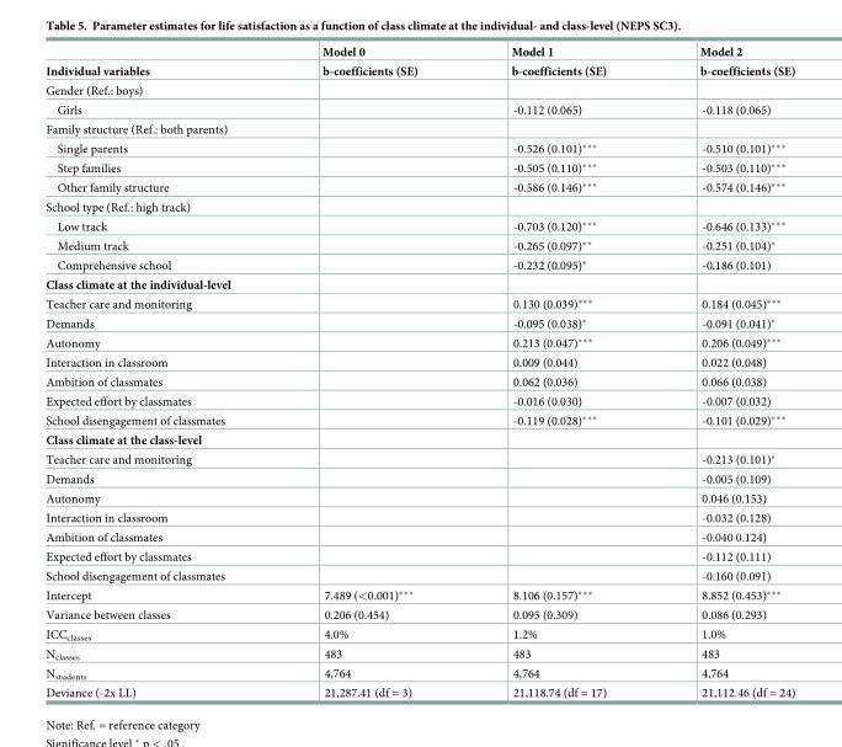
<table><thead><tr><td rowspan="2">Individual variables</td><td rowspan="2">Model 0 b-coefficients (SE)</td><td rowspan="2">Model 1 b-coefficients (SE)</td><td rowspan="2">Model 2 b-coefficients (SE)</td></tr><tr></tr></thead><tbody><tr><td colspan="4">Gender (Ref.: boys)</td></tr><tr><td>Girls</td><td></td><td>-0.112 (0.065)</td><td>-0.118 (0.065)</td></tr><tr><td colspan="4">Family structure (Ref.: both parents)</td></tr><tr><td>Single parents</td><td></td><td>-0.526 (0.101)***</td><td>-0.510 (0.101)***</td></tr><tr><td>Step families</td><td></td><td>-0.505 (0.110)***</td><td>-0.503 (0.110)***</td></tr><tr><td>Other family structure</td><td></td><td>-0.586 (0.146)***</td><td>-0.574 (0.146)***</td></tr><tr><td colspan="4">School type (Ref.: high track)</td></tr><tr><td>Low track</td><td></td><td>-0.703 (0.120)***</td><td>-0.646 (0.133)***</td></tr><tr><td>Medium track</td><td></td><td>-0.265 (0.097)**</td><td>-0.251 (0.104)*</td></tr><tr><td>Comprehensive school</td><td></td><td>-0.232 (0.095)*</td><td>-0.186 (0.101)</td></tr><tr><td colspan="4">Class climate at the individual-level</td></tr><tr><td>Teacher care and monitoring</td><td></td><td>0.130 (0.039)***</td><td>0.184 (0.045)***</td></tr><tr><td>Demands</td><td></td><td>-0.095 (0.038)*</td><td>-0.091 (0.041)*</td></tr><tr><td>Autonomy</td><td></td><td>0.213 (0.047)***</td><td>0.206 (0.049)***</td></tr><tr><td>Interaction in classroom</td><td></td><td>0.009 (0.044)</td><td>0.022 (0.048)</td></tr><tr><td>Ambition of classmates</td><td></td><td>0.062 (0.036)</td><td>0.066 (0.038)</td></tr><tr><td>Expected effort by classmates</td><td></td><td>-0.016 (0.030)</td><td>-0.007 (0.032)</td></tr><tr><td>School disengagement of classmates</td><td></td><td>-0.119 (0.028)***</td><td>-0.101 (0.029)***</td></tr><tr><td colspan="4">Class climate at the class-level</td></tr><tr><td>Teacher care and monitoring</td><td></td><td></td><td>-0.213 (0.101)*</td></tr><tr><td>Demands</td><td></td><td></td><td>-0.005 (0.109)</td></tr><tr><td>Autonomy</td><td></td><td></td><td>0.046 (0.153)</td></tr><tr><td>Interaction in classroom</td><td></td><td></td><td>-0.032 (0.128)</td></tr><tr><td>Ambition of classmates</td><td></td><td></td><td>-0.040 0.124)</td></tr><tr><td>Expected effort by classmates</td><td></td><td></td><td>-0.112 (0.111)</td></tr><tr><td>School disengagement of classmates</td><td></td><td></td><td>-0.160 (0.091)</td></tr><tr><td>Intercept</td><td>7.489 (&lt;0.001)***</td><td>8.106 (0.157)***</td><td>8.852 (0.453)***</td></tr><tr><td>Variance between classes</td><td>0.206 (0.454)</td><td>0.095 (0.309)</td><td>0.086 (0.293)</td></tr><tr><td>ICC<sub>classes</sub></td><td>4.0%</td><td>1.2%</td><td>1.0%</td></tr><tr><td>N<sub>classes</sub></td><td>483</td><td>483</td><td>483</td></tr><tr><td>N<sub>students</sub></td><td>4,764</td><td>4,764</td><td>4,764</td></tr><tr><td>Deviance (-2x LL)</td><td>21,287.41 (df = 3)</td><td>21,118.74 (df = 17)</td><td>21,112.46 (df = 24)</td></tr></tbody></table>